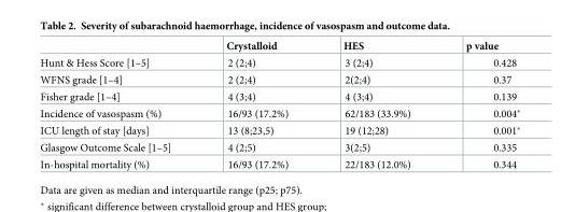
<table><thead><tr><td></td><td>Crystalloid</td><td>HES</td><td>p value</td></tr></thead><tbody><tr><td>Hunt &amp; Hess Score [1–5]</td><td>2 (2;4)</td><td>3 (2;4)</td><td>0.428</td></tr><tr><td>WFNS grade [1–4]</td><td>2 (2;4)</td><td>2(2;4)</td><td>0.37</td></tr><tr><td>Fisher grade [1–4]</td><td>4 (3;4)</td><td>4 (3;4)</td><td>0.139</td></tr><tr><td>Incidence of vasospasm (%)</td><td>16/93 (17.2%)</td><td>62/183 (33.9%)</td><td>0.004*</td></tr><tr><td>ICU length of stay [days]</td><td>13 (8;23,5)</td><td>19 (12;28)</td><td>0.001*</td></tr><tr><td>Glasgow Outcome Scale [1–5]</td><td>4 (2;5)</td><td>3(2;5)</td><td>0.335</td></tr><tr><td>In-hospital mortality (%)</td><td>16/93 (17.2%)</td><td>22/183 (12.0%)</td><td>0.344</td></tr></tbody></table>